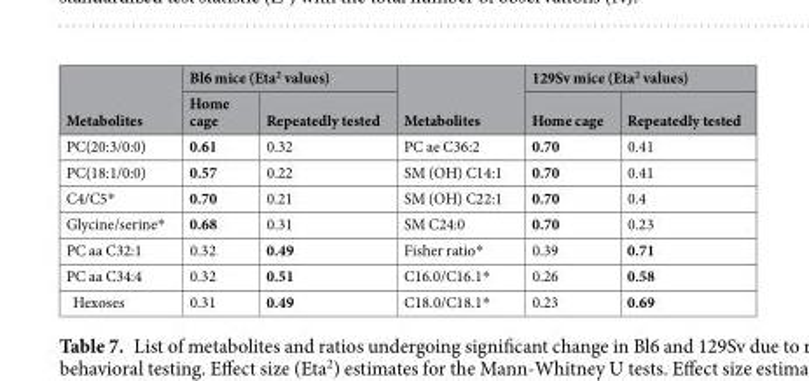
<table><thead><tr><td rowspan="2">Metabolites</td><td colspan="2">Bl6 mice (Eta<sup>2</sup> values)</td><td rowspan="2">Metabolites</td><td colspan="2">129Sv mice (Eta<sup>2</sup> values)</td></tr><tr><td>Home cage</td><td>Repeatedly tested</td><td>Home cage</td><td>Repeatedly tested</td></tr></thead><tbody><tr><td>PC(20:3/0:0)</td><td>0.61</td><td>0.32</td><td>PC ae C36:2</td><td>0.70</td><td>0.41</td></tr><tr><td>PC(18:1/0:0)</td><td>0.57</td><td>0.22</td><td>SM (OH) C14:1</td><td>0.70</td><td>0.41</td></tr><tr><td>C4/C5*</td><td>0.70</td><td>0.21</td><td>SM (OH) C22:1</td><td>0.70</td><td>0.4</td></tr><tr><td>Glycine/serine*</td><td>0.68</td><td>0.31</td><td>SM C24:0</td><td>0.70</td><td>0.23</td></tr><tr><td>PC aa C32:1</td><td>0.32</td><td>0.49</td><td>Fisher ratio*</td><td>0.39</td><td>0.71</td></tr><tr><td>PC aa C34:4</td><td>0.32</td><td>0.51</td><td>C16.0/C16.1*</td><td>0.26</td><td>0.58</td></tr><tr><td>Hexoses</td><td>0.31</td><td>0.49</td><td>C18.0/C18.1*</td><td>0.23</td><td>0.69</td></tr></tbody></table>